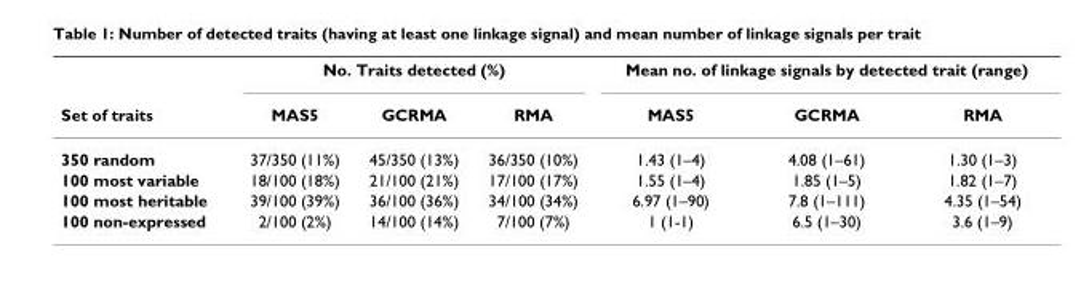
<table><thead><tr><td rowspan="2">Set of traits</td><td colspan="3">No. Traits detected (%)</td><td colspan="3">Mean no. of linkage signals by detected trait (range)</td></tr><tr><td>MAS5</td><td>GCRMA</td><td>RMA</td><td>MAS5</td><td>GCRMA</td><td>RMA</td></tr></thead><tbody><tr><td>350 random</td><td>37/350 (11%)</td><td>45/350 (13%)</td><td>36/350 (10%)</td><td>1.43 (1–4)</td><td>4.08 (1–61)</td><td>1.30 (1–3)</td></tr><tr><td>100 most variable</td><td>18/100 (18%)</td><td>21/100 (21%)</td><td>17/100 (17%)</td><td>1.55 (1–4)</td><td>1.85 (1–5)</td><td>1.82 (1–7)</td></tr><tr><td>100 most heritable</td><td>39/100 (39%)</td><td>36/100 (36%)</td><td>34/100 (34%)</td><td>6.97 (1–90)</td><td>7.8 (1–111)</td><td>4.35 (1–54)</td></tr><tr><td>100 non-expressed</td><td>2/100 (2%)</td><td>14/100 (14%)</td><td>7/100 (7%)</td><td>1 (1-1)</td><td>6.5 (1–30)</td><td>3.6 (1–9)</td></tr></tbody></table>